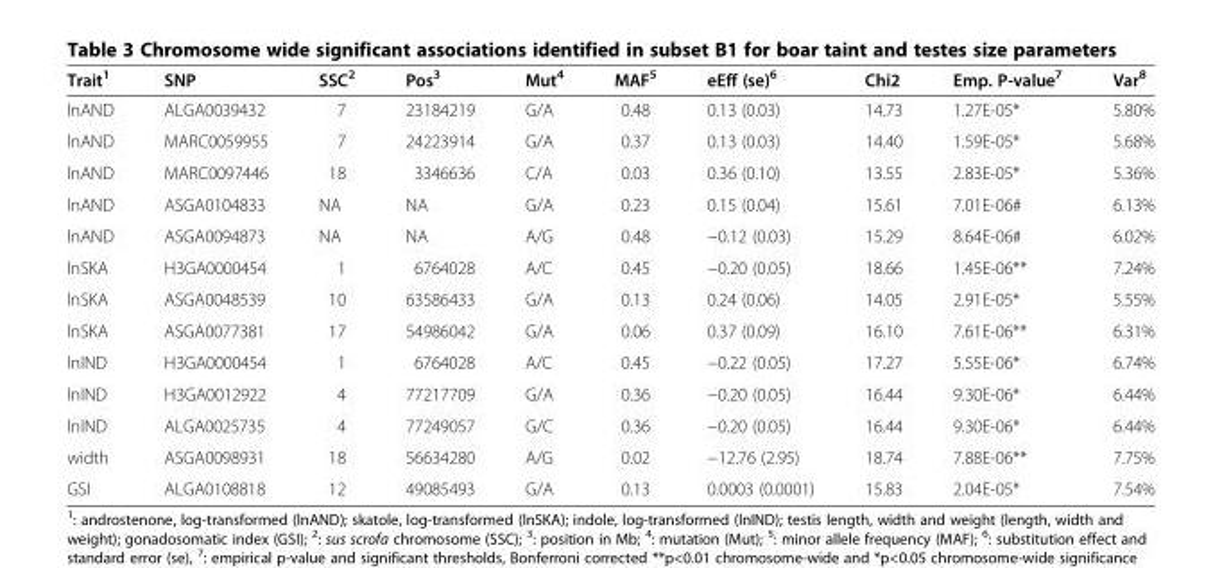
<table><thead><tr><td>Trait<sup>1</sup></td><td>SNP</td><td>SSC<sup>2</sup></td><td>Pos<sup>3</sup></td><td>Mut<sup>4</sup></td><td>MAF<sup>5</sup></td><td>eEff (se)<sup>6</sup></td><td>Chi2</td><td>Emp. P-value<sup>7</sup></td><td>Var<sup>8</sup></td></tr></thead><tbody><tr><td>lnAND</td><td>ALGA0039432</td><td>7</td><td>23184219</td><td>G/A</td><td>0.48</td><td>0.13 (0.03)</td><td>14.73</td><td>1.27E-05*</td><td>5.80%</td></tr><tr><td>lnAND</td><td>MARC0059955</td><td>7</td><td>24223914</td><td>G/A</td><td>0.37</td><td>0.13 (0.03)</td><td>14.40</td><td>1.59E-05*</td><td>5.68%</td></tr><tr><td>lnAND</td><td>MARC0097446</td><td>18</td><td>3346636</td><td>C/A</td><td>0.03</td><td>0.36 (0.10)</td><td>13.55</td><td>2.83E-05*</td><td>5.36%</td></tr><tr><td>lnAND</td><td>ASGA0104833</td><td>NA</td><td>NA</td><td>G/A</td><td>0.23</td><td>0.15 (0.04)</td><td>15.61</td><td>7.01E-06#</td><td>6.13%</td></tr><tr><td>lnAND</td><td>ASGA0094873</td><td>NA</td><td>NA</td><td>A/G</td><td>0.48</td><td>−0.12 (0.03)</td><td>15.29</td><td>8.64E-06#</td><td>6.02%</td></tr><tr><td>lnSKA</td><td>H3GA0000454</td><td>1</td><td>6764028</td><td>A/C</td><td>0.45</td><td>−0.20 (0.05)</td><td>18.66</td><td>1.45E-06**</td><td>7.24%</td></tr><tr><td>lnSKA</td><td>ASGA0048539</td><td>10</td><td>63586433</td><td>G/A</td><td>0.13</td><td>0.24 (0.06)</td><td>14.05</td><td>2.91E-05*</td><td>5.55%</td></tr><tr><td>lnSKA</td><td>ASGA0077381</td><td>17</td><td>54986042</td><td>G/A</td><td>0.06</td><td>0.37 (0.09)</td><td>16.10</td><td>7.61E-06**</td><td>6.31%</td></tr><tr><td>lnIND</td><td>H3GA0000454</td><td>1</td><td>6764028</td><td>A/C</td><td>0.45</td><td>−0.22 (0.05)</td><td>17.27</td><td>5.55E-06*</td><td>6.74%</td></tr><tr><td>lnIND</td><td>H3GA0012922</td><td>4</td><td>77217709</td><td>G/A</td><td>0.36</td><td>−0.20 (0.05)</td><td>16.44</td><td>9.30E-06*</td><td>6.44%</td></tr><tr><td>lnIND</td><td>ALGA0025735</td><td>4</td><td>77249057</td><td>G/C</td><td>0.36</td><td>−0.20 (0.05)</td><td>16.44</td><td>9.30E-06*</td><td>6.44%</td></tr><tr><td>width</td><td>ASGA0098931</td><td>18</td><td>56634280</td><td>A/G</td><td>0.02</td><td>−12.76 (2.95)</td><td>18.74</td><td>7.88E-06**</td><td>7.75%</td></tr><tr><td>GSI</td><td>ALGA0108818</td><td>12</td><td>49085493</td><td>G/A</td><td>0.13</td><td>0.0003 (0.0001)</td><td>15.83</td><td>2.04E-05*</td><td>7.54%</td></tr></tbody></table>